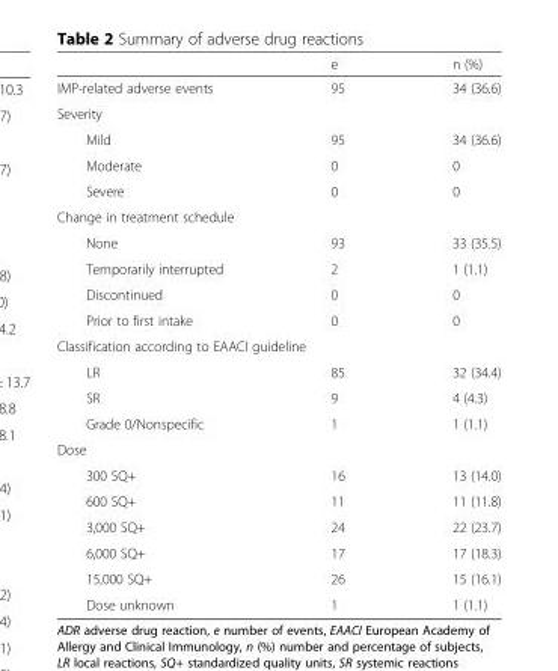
<table><thead><tr><td></td><td>e</td><td>n (%)</td></tr></thead><tbody><tr><td>IMP-related adverse events</td><td>95</td><td>34 (36.6)</td></tr><tr><td colspan="3">Severity</td></tr><tr><td>Mild</td><td>95</td><td>34 (36.6)</td></tr><tr><td>Moderate</td><td>0</td><td>0</td></tr><tr><td>Severe</td><td>0</td><td>0</td></tr><tr><td colspan="3">Change in treatment schedule</td></tr><tr><td>None</td><td>93</td><td>33 (35.5)</td></tr><tr><td>Temporarily interrupted</td><td>2</td><td>1 (1.1)</td></tr><tr><td>Discontinued</td><td>0</td><td>0</td></tr><tr><td>Prior to first intake</td><td>0</td><td>0</td></tr><tr><td colspan="3">Classification according to EAACI guideline</td></tr><tr><td>LR</td><td>85</td><td>32 (34.4)</td></tr><tr><td>SR</td><td>9</td><td>4 (4.3)</td></tr><tr><td>Grade 0/Nonspecific</td><td>1</td><td>1 (1.1)</td></tr><tr><td colspan="3">Dose</td></tr><tr><td>300 SQ+</td><td>16</td><td>13 (14.0)</td></tr><tr><td>600 SQ+</td><td>11</td><td>11 (11.8)</td></tr><tr><td>3,000 SQ+</td><td>24</td><td>22 (23.7)</td></tr><tr><td>6,000 SQ+</td><td>17</td><td>17 (18.3)</td></tr><tr><td>15,000 SQ+</td><td>26</td><td>15 (16.1)</td></tr><tr><td>Dose unknown</td><td>1</td><td>1 (1.1)</td></tr></tbody></table>